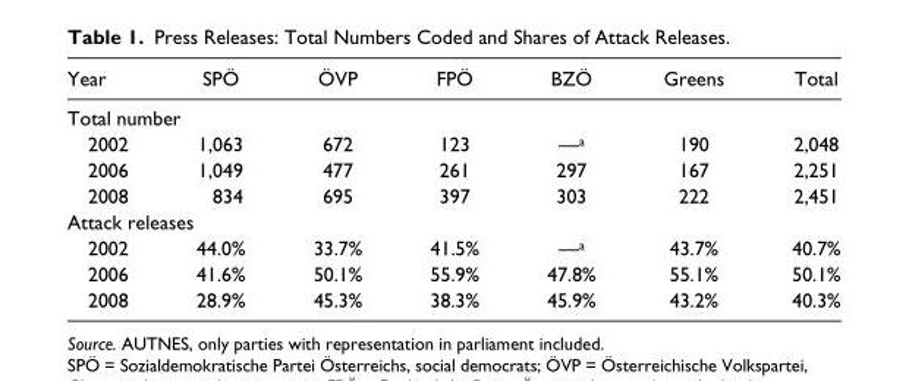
<table><thead><tr><td>Year</td><td>SPÖ</td><td>ÖVP</td><td>FPÖ</td><td>BZÖ</td><td>Greens</td><td>Total</td></tr></thead><tbody><tr><td colspan="7">Total number</td></tr><tr><td>2002</td><td>1,063</td><td>672</td><td>123</td><td>—<sup>a</sup></td><td>190</td><td>2,048</td></tr><tr><td>2006</td><td>1,049</td><td>477</td><td>261</td><td>297</td><td>167</td><td>2,251</td></tr><tr><td>2008</td><td>834</td><td>695</td><td>397</td><td>303</td><td>222</td><td>2,451</td></tr><tr><td colspan="7">Attack releases</td></tr><tr><td>2002</td><td>44.0%</td><td>33.7%</td><td>41.5%</td><td>—<sup>a</sup></td><td>43.7%</td><td>40.7%</td></tr><tr><td>2006</td><td>41.6%</td><td>50.1%</td><td>55.9%</td><td>47.8%</td><td>55.1%</td><td>50.1%</td></tr><tr><td>2008</td><td>28.9%</td><td>45.3%</td><td>38.3%</td><td>45.9%</td><td>43.2%</td><td>40.3%</td></tr></tbody></table>